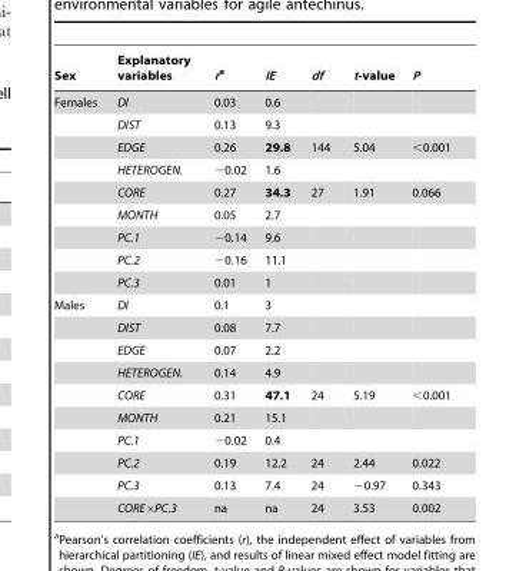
<table><thead><tr><td>Sex</td><td>Explanatory variables</td><td>ra</td><td>IE</td><td>df</td><td>t-value</td><td>P</td></tr></thead><tbody><tr><td rowspan="9">Females</td><td>DI</td><td>0.03</td><td>0.6</td><td></td><td></td><td></td></tr><tr><td>DIST</td><td>0.13</td><td>9.3</td><td></td><td></td><td></td></tr><tr><td>EDGE</td><td>0.26</td><td>29.8</td><td>144</td><td>5.04</td><td>&lt;0.001</td></tr><tr><td>HETEROGEN.</td><td>−0.02</td><td>1.6</td><td></td><td></td><td></td></tr><tr><td>CORE</td><td>0.27</td><td>34.3</td><td>27</td><td>1.91</td><td>0.066</td></tr><tr><td>MONTH</td><td>0.05</td><td>2.7</td><td></td><td></td><td></td></tr><tr><td>PC.1</td><td>−0.14</td><td>9.6</td><td></td><td></td><td></td></tr><tr><td>PC.2</td><td>−0.16</td><td>11.1</td><td></td><td></td><td></td></tr><tr><td>PC.3</td><td>0.01</td><td>1</td><td></td><td></td><td></td></tr><tr><td rowspan="10">Males</td><td>DI</td><td>0.1</td><td>3</td><td></td><td></td><td></td></tr><tr><td>DIST</td><td>0.08</td><td>7.7</td><td></td><td></td><td></td></tr><tr><td>EDGE</td><td>0.07</td><td>2.2</td><td></td><td></td><td></td></tr><tr><td>HETEROGEN.</td><td>0.14</td><td>4.9</td><td></td><td></td><td></td></tr><tr><td>CORE</td><td>0.31</td><td>47.1</td><td>24</td><td>5.19</td><td>&lt;0.001</td></tr><tr><td>MONTH</td><td>0.21</td><td>15.1</td><td></td><td></td><td></td></tr><tr><td>PC.1</td><td>−0.02</td><td>0.4</td><td></td><td></td><td></td></tr><tr><td>PC.2</td><td>0.19</td><td>12.2</td><td>24</td><td>2.44</td><td>0.022</td></tr><tr><td>PC.3</td><td>0.13</td><td>7.4</td><td>24</td><td>−0.97</td><td>0.343</td></tr><tr><td>CORE×PC.3</td><td>na</td><td>na</td><td>24</td><td>3.53</td><td>0.002</td></tr></tbody></table>